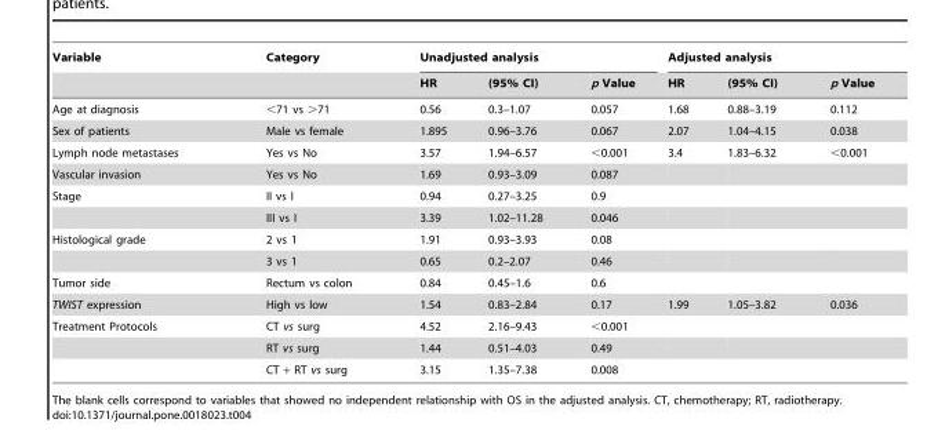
<table><thead><tr><td rowspan="2">Variable</td><td rowspan="2">Category</td><td colspan="3">Unadjusted analysis</td><td colspan="3">Adjusted analysis</td></tr><tr><td>HR</td><td>(95% CI)</td><td>p Value</td><td>HR</td><td>(95% CI)</td><td>p Value</td></tr></thead><tbody><tr><td>Age at diagnosis</td><td>&lt;71 vs &gt;71</td><td>0.56</td><td>0.3–1.07</td><td>0.057</td><td>1.68</td><td>0.88–3.19</td><td>0.112</td></tr><tr><td>Sex of patients</td><td>Male vs female</td><td>1.895</td><td>0.96–3.76</td><td>0.067</td><td>2.07</td><td>1.04–4.15</td><td>0.038</td></tr><tr><td>Lymph node metastases</td><td>Yes vs No</td><td>3.57</td><td>1.94–6.57</td><td>&lt;0.001</td><td>3.4</td><td>1.83–6.32</td><td>&lt;0.001</td></tr><tr><td>Vascular invasion</td><td>Yes vs No</td><td>1.69</td><td>0.93–3.09</td><td>0.087</td><td></td><td></td><td></td></tr><tr><td rowspan="2">Stage</td><td>II vs I</td><td>0.94</td><td>0.27–3.25</td><td>0.9</td><td></td><td></td><td></td></tr><tr><td>III vs I</td><td>3.39</td><td>1.02–11.28</td><td>0.046</td><td></td><td></td><td></td></tr><tr><td rowspan="2">Histological grade</td><td>2 vs 1</td><td>1.91</td><td>0.93–3.93</td><td>0.08</td><td></td><td></td><td></td></tr><tr><td>3 vs 1</td><td>0.65</td><td>0.2–2.07</td><td>0.46</td><td></td><td></td><td></td></tr><tr><td>Tumor side</td><td>Rectum vs colon</td><td>0.84</td><td>0.45–1.6</td><td>0.6</td><td></td><td></td><td></td></tr><tr><td>TWIST expression</td><td>High vs low</td><td>1.54</td><td>0.83–2.84</td><td>0.17</td><td>1.99</td><td>1.05–3.82</td><td>0.036</td></tr><tr><td rowspan="3">Treatment Protocols</td><td>CT vs surg</td><td>4.52</td><td>2.16–9.43</td><td>&lt;0.001</td><td></td><td></td><td></td></tr><tr><td>RT vs surg</td><td>1.44</td><td>0.51–4.03</td><td>0.49</td><td></td><td></td><td></td></tr><tr><td>CT + RT vs surg</td><td>3.15</td><td>1.35–7.38</td><td>0.008</td><td></td><td></td><td></td></tr></tbody></table>